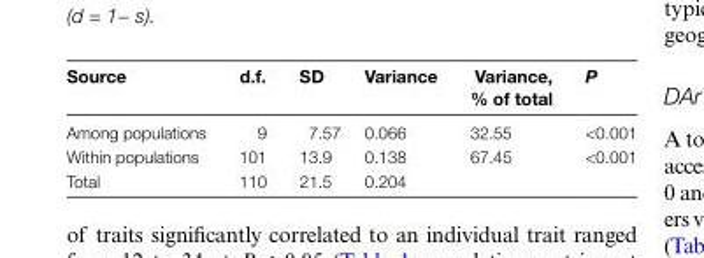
<table><thead><tr><td>Source</td><td>d.f.</td><td>SD</td><td>Variance</td><td>Variance, % of total</td><td>P</td></tr></thead><tbody><tr><td>Among populations</td><td>9</td><td>7.57</td><td>0.066</td><td>32.55</td><td>&lt;0.001</td></tr><tr><td>Within populations</td><td>101</td><td>13.9</td><td>0.138</td><td>67.45</td><td>&lt;0.001</td></tr><tr><td>Total</td><td>110</td><td>21.5</td><td>0.204</td><td></td><td></td></tr></tbody></table>